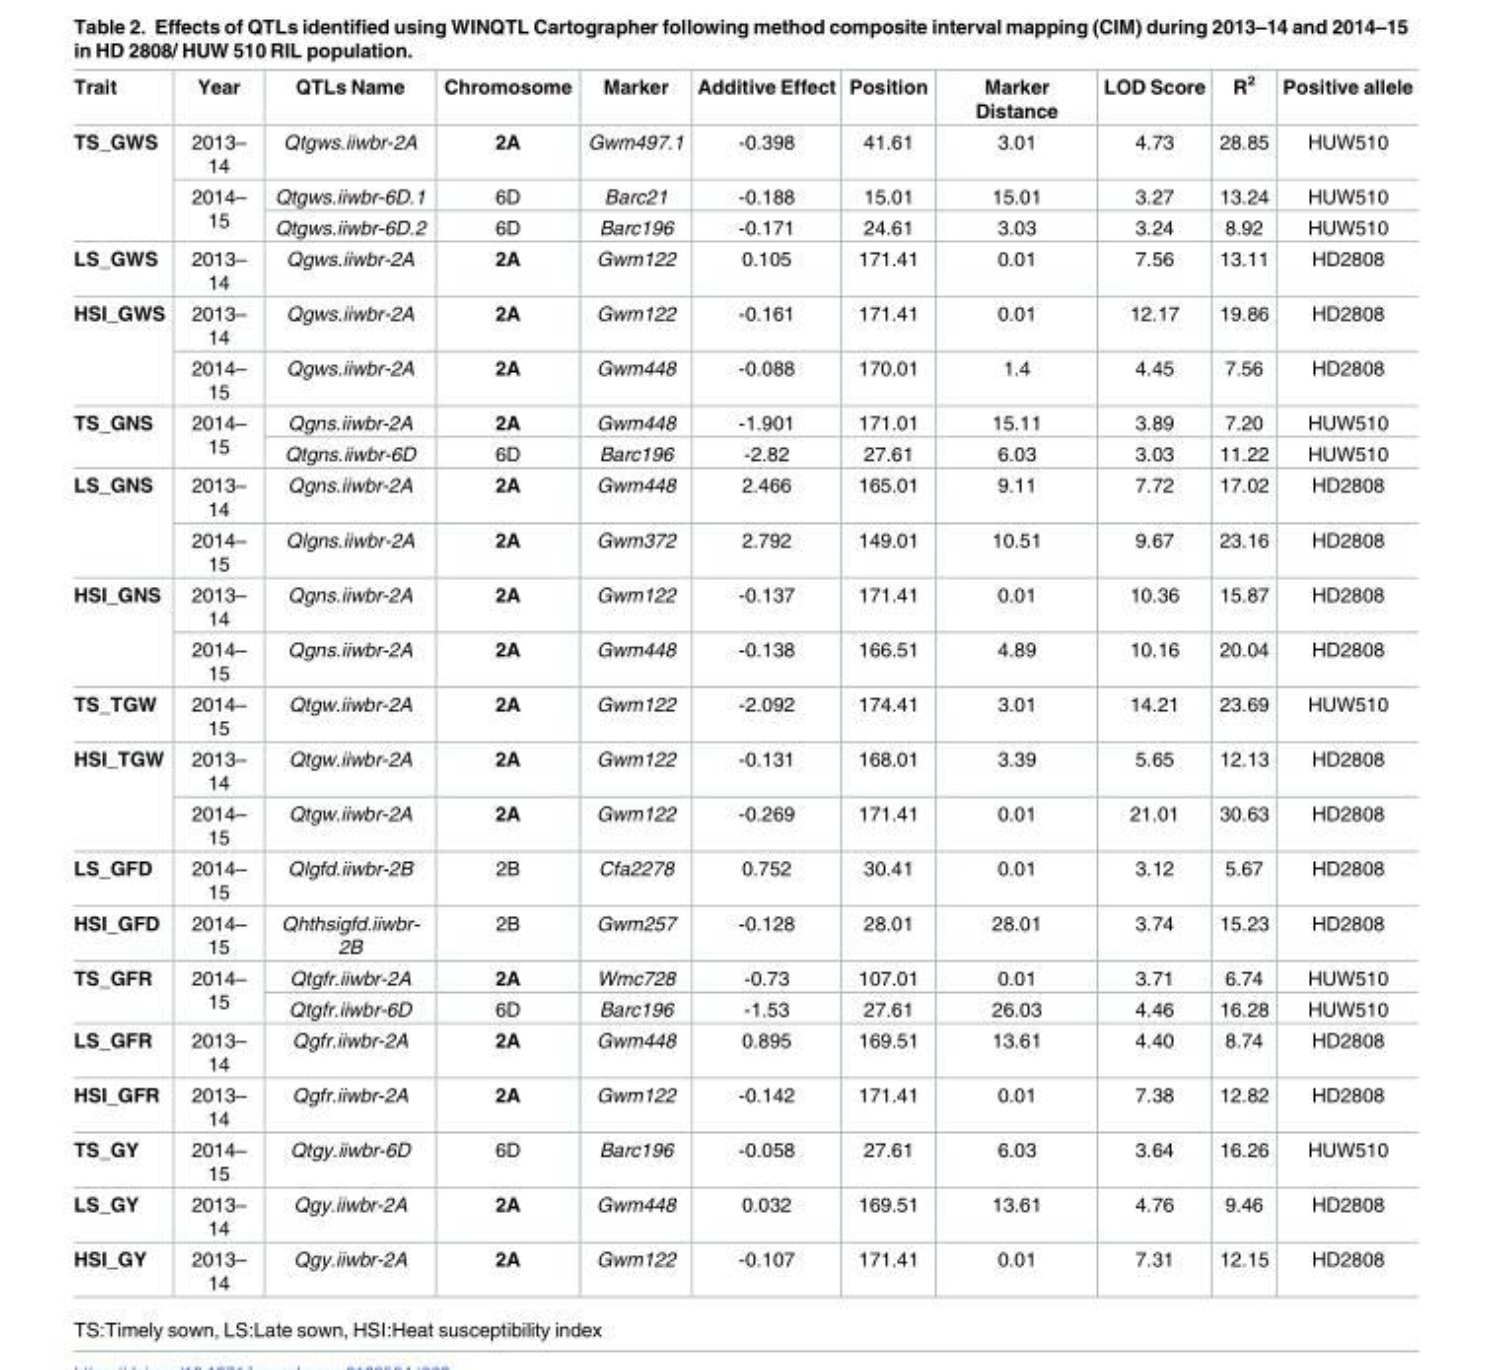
<table><thead><tr><td>Trait</td><td>Year</td><td>QTLs Name</td><td>Chromosome</td><td>Marker</td><td>Additive Effect</td><td>Position</td><td>Marker Distance</td><td>LOD Score</td><td>R<sup>2</sup></td><td>Positive allele</td></tr></thead><tbody><tr><td rowspan="3">TS_GWS</td><td>2013– 14</td><td>Qtgws.iiwbr-2A</td><td>2A</td><td>Gwm497.1</td><td>-0.398</td><td>41.61</td><td>3.01</td><td>4.73</td><td>28.85</td><td>HUW510</td></tr><tr><td rowspan="2">2014– 15</td><td>Qtgws.iiwbr-6D.1</td><td>6D</td><td>Barc21</td><td>-0.188</td><td>15.01</td><td>15.01</td><td>3.27</td><td>13.24</td><td>HUW510</td></tr><tr><td>Qtgws.iiwbr-6D.2</td><td>6D</td><td>Barc196</td><td>-0.171</td><td>24.61</td><td>3.03</td><td>3.24</td><td>8.92</td><td>HUW510</td></tr><tr><td>LS_GWS</td><td>2013– 14</td><td>Qgws.iiwbr-2A</td><td>2A</td><td>Gwm122</td><td>0.105</td><td>171.41</td><td>0.01</td><td>7.56</td><td>13.11</td><td>HD2808</td></tr><tr><td rowspan="2">HSI_GWS</td><td>2013– 14</td><td>Qgws.iiwbr-2A</td><td>2A</td><td>Gwm122</td><td>-0.161</td><td>171.41</td><td>0.01</td><td>12.17</td><td>19.86</td><td>HD2808</td></tr><tr><td>2014– 15</td><td>Qgws.iiwbr-2A</td><td>2A</td><td>Gwm448</td><td>-0.088</td><td>170.01</td><td>1.4</td><td>4.45</td><td>7.56</td><td>HD2808</td></tr><tr><td rowspan="2">TS_GNS</td><td rowspan="2">2014– 15</td><td>Qgns.iiwbr-2A</td><td>2A</td><td>Gwm448</td><td>-1.901</td><td>171.01</td><td>15.11</td><td>3.89</td><td>7.20</td><td>HUW510</td></tr><tr><td>Qtgns.iiwbr-6D</td><td>6D</td><td>Barc196</td><td>-2.82</td><td>27.61</td><td>6.03</td><td>3.03</td><td>11.22</td><td>HUW510</td></tr><tr><td rowspan="2">LS_GNS</td><td>2013– 14</td><td>Qgns.iiwbr-2A</td><td>2A</td><td>Gwm448</td><td>2.466</td><td>165.01</td><td>9.11</td><td>7.72</td><td>17.02</td><td>HD2808</td></tr><tr><td>2014– 15</td><td>Qlgns.iiwbr-2A</td><td>2A</td><td>Gwm372</td><td>2.792</td><td>149.01</td><td>10.51</td><td>9.67</td><td>23.16</td><td>HD2808</td></tr><tr><td rowspan="2">HSI_GNS</td><td>2013– 14</td><td>Qgns.iiwbr-2A</td><td>2A</td><td>Gwm122</td><td>-0.137</td><td>171.41</td><td>0.01</td><td>10.36</td><td>15.87</td><td>HD2808</td></tr><tr><td>2014– 15</td><td>Qgns.iiwbr-2A</td><td>2A</td><td>Gwm448</td><td>-0.138</td><td>166.51</td><td>4.89</td><td>10.16</td><td>20.04</td><td>HD2808</td></tr><tr><td>TS_TGW</td><td>2014– 15</td><td>Qtgw.iiwbr-2A</td><td>2A</td><td>Gwm122</td><td>-2.092</td><td>174.41</td><td>3.01</td><td>14.21</td><td>23.69</td><td>HUW510</td></tr><tr><td rowspan="2">HSI_TGW</td><td>2013– 14</td><td>Qtgw.iiwbr-2A</td><td>2A</td><td>Gwm122</td><td>-0.131</td><td>168.01</td><td>3.39</td><td>5.65</td><td>12.13</td><td>HD2808</td></tr><tr><td>2014– 15</td><td>Qtgw.iiwbr-2A</td><td>2A</td><td>Gwm122</td><td>-0.269</td><td>171.41</td><td>0.01</td><td>21.01</td><td>30.63</td><td>HD2808</td></tr><tr><td>LS_GFD</td><td>2014– 15</td><td>Qlgfd.iiwbr-2B</td><td>2B</td><td>Cfa2278</td><td>0.752</td><td>30.41</td><td>0.01</td><td>3.12</td><td>5.67</td><td>HD2808</td></tr><tr><td>HSI_GFD</td><td>2014– 15</td><td>Qhthsigfd.iiwbr- 2B</td><td>2B</td><td>Gwm257</td><td>-0.128</td><td>28.01</td><td>28.01</td><td>3.74</td><td>15.23</td><td>HD2808</td></tr><tr><td rowspan="2">TS_GFR</td><td rowspan="2">2014– 15</td><td>Qtgfr.iiwbr-2A</td><td>2A</td><td>Wmc728</td><td>-0.73</td><td>107.01</td><td>0.01</td><td>3.71</td><td>6.74</td><td>HUW510</td></tr><tr><td>Qtgfr.iiwbr-6D</td><td>6D</td><td>Barc196</td><td>-1.53</td><td>27.61</td><td>26.03</td><td>4.46</td><td>16.28</td><td>HUW510</td></tr><tr><td>LS_GFR</td><td>2013– 14</td><td>Qgfr.iiwbr-2A</td><td>2A</td><td>Gwm448</td><td>0.895</td><td>169.51</td><td>13.61</td><td>4.40</td><td>8.74</td><td>HD2808</td></tr><tr><td>HSI_GFR</td><td>2013– 14</td><td>Qgfr.iiwbr-2A</td><td>2A</td><td>Gwm122</td><td>-0.142</td><td>171.41</td><td>0.01</td><td>7.38</td><td>12.82</td><td>HD2808</td></tr><tr><td>TS_GY</td><td>2014– 15</td><td>Qtgy.iiwbr-6D</td><td>6D</td><td>Barc196</td><td>-0.058</td><td>27.61</td><td>6.03</td><td>3.64</td><td>16.26</td><td>HUW510</td></tr><tr><td>LS_GY</td><td>2013– 14</td><td>Qgy.iiwbr-2A</td><td>2A</td><td>Gwm448</td><td>0.032</td><td>169.51</td><td>13.61</td><td>4.76</td><td>9.46</td><td>HD2808</td></tr><tr><td>HSI_GY</td><td>2013– 14</td><td>Qgy.iiwbr-2A</td><td>2A</td><td>Gwm122</td><td>-0.107</td><td>171.41</td><td>0.01</td><td>7.31</td><td>12.15</td><td>HD2808</td></tr></tbody></table>